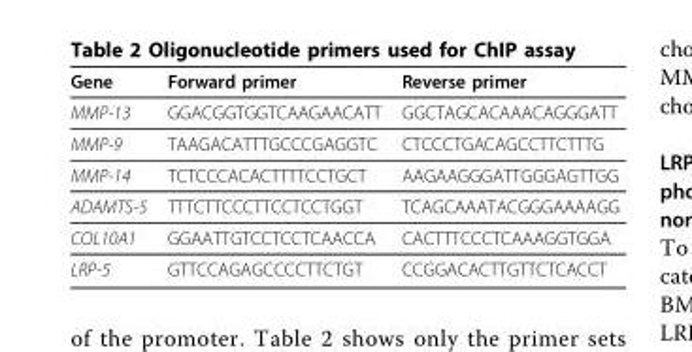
<table><thead><tr><td>Gene</td><td>Forward primer</td><td>Reverse primer</td></tr></thead><tbody><tr><td>MMP-13</td><td>GGACGGTGGTCAAGAACATT</td><td>GGCTAGCACAAACAGGGATT</td></tr><tr><td>MMP-9</td><td>TAAGACATTTGCCCGAGGTC</td><td>CTCCCTGACAGCCTTCTTTG</td></tr><tr><td>MMP-14</td><td>TCTCCCACACTTTTCCTGCT</td><td>AAGAAGGGATTGGGAGTTGG</td></tr><tr><td>ADAMTS-5</td><td>TTTCTTCCCTTCCTCCTGGT</td><td>TCAGCAAATACGGGAAAAGG</td></tr><tr><td>COL10A1</td><td>GGAATTGTCCTCCTCAACCA</td><td>CACTTTCCCTCAAAGGTGGA</td></tr><tr><td>LRP-5</td><td>GTTCCAGAGCCCCTTCTGT</td><td>CCGGACACTTGTTCTCACCT</td></tr></tbody></table>